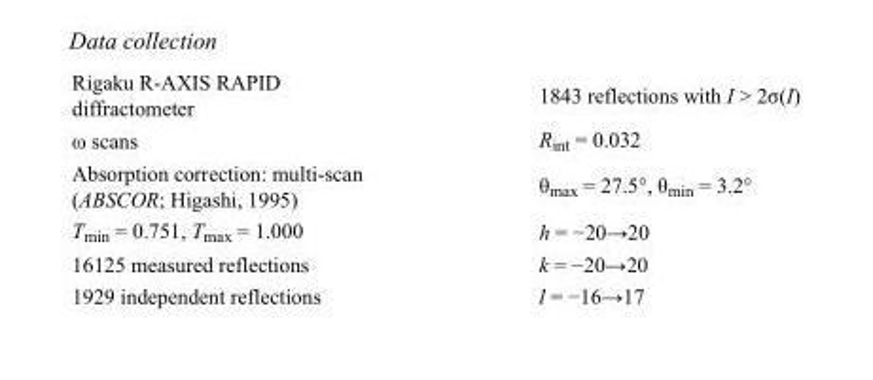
<table><tbody><tr><td>Rigaku R-AXIS RAPID diffractometer</td><td>1843 reflections with I &gt; 2σ(I)</td></tr><tr><td>ω scans</td><td>R<sub>int</sub> = 0.032</td></tr><tr><td>Absorption correction: multi-scan (ABSCOR; Higashi, 1995)</td><td>θ<sub>max</sub> = 27.5°, θ<sub>min</sub> = 3.2°</td></tr><tr><td>T<sub>min</sub> = 0.751, T<sub>max</sub> = 1.000</td><td>h = −20→20</td></tr><tr><td>16125 measured reflections</td><td>k = −20→20</td></tr><tr><td>1929 independent reflections</td><td>l = −16→17</td></tr></tbody></table>